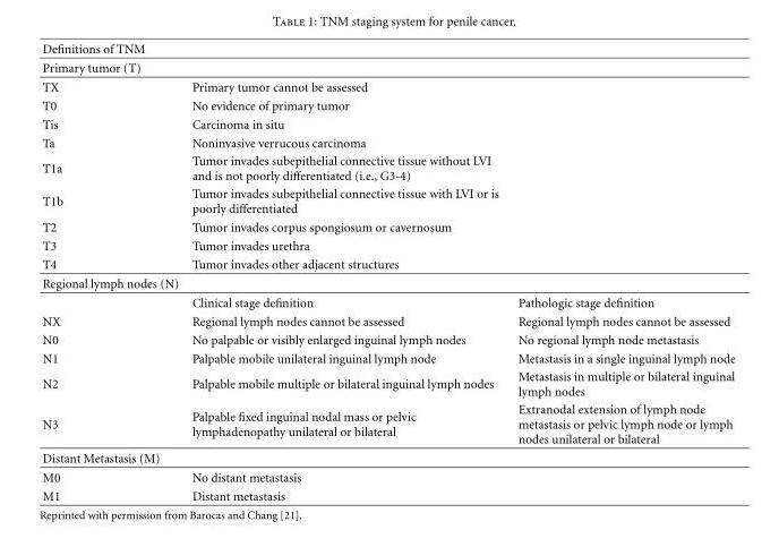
<table><thead><tr><td>Definitions of TNM</td><td></td><td></td></tr></thead><tbody><tr><td colspan="3">Primary tumor (T)</td></tr><tr><td>TX</td><td>Primary tumor cannot be assessed</td><td></td></tr><tr><td>T0</td><td>No evidence of primary tumor</td><td></td></tr><tr><td>Tis</td><td>Carcinoma in situ</td><td></td></tr><tr><td>Ta</td><td>Noninvasive verrucous carcinoma</td><td></td></tr><tr><td>T1a</td><td>Tumor invades subepithelial connective tissue without LVI and is not poorly differentiated (i.e., G3-4)</td><td></td></tr><tr><td>T1b</td><td>Tumor invades subepithelial connective tissue with LVI or is poorly differentiated</td><td></td></tr><tr><td>T2</td><td>Tumor invades corpus spongiosum or cavernosum</td><td></td></tr><tr><td>T3</td><td>Tumor invades urethra</td><td></td></tr><tr><td>T4</td><td>Tumor invades other adjacent structures</td><td></td></tr><tr><td colspan="3">Regional lymph nodes (N)</td></tr><tr><td></td><td>Clinical stage definition</td><td>Pathologic stage definition</td></tr><tr><td>NX</td><td>Regional lymph nodes cannot be assessed</td><td>Regional lymph nodes cannot be assessed</td></tr><tr><td>N0</td><td>No palpable or visibly enlarged inguinal lymph nodes</td><td>No regional lymph node metastasis</td></tr><tr><td>N1</td><td>Palpable mobile unilateral inguinal lymph node</td><td>Metastasis in a single inguinal lymph node</td></tr><tr><td>N2</td><td>Palpable mobile multiple or bilateral inguinal lymph nodes</td><td>Metastasis in multiple or bilateral inguinal lymph nodes</td></tr><tr><td>N3</td><td>Palpable fixed inguinal nodal mass or pelvic lymphadenopathy unilateral or bilateral</td><td>Extranodal extension of lymph node metastasis or pelvic lymph node or lymph nodes unilateral or bilateral</td></tr><tr><td colspan="3">Distant Metastasis (M)</td></tr><tr><td>M0</td><td>No distant metastasis</td><td></td></tr><tr><td>M1</td><td>Distant metastasis</td><td></td></tr></tbody></table>